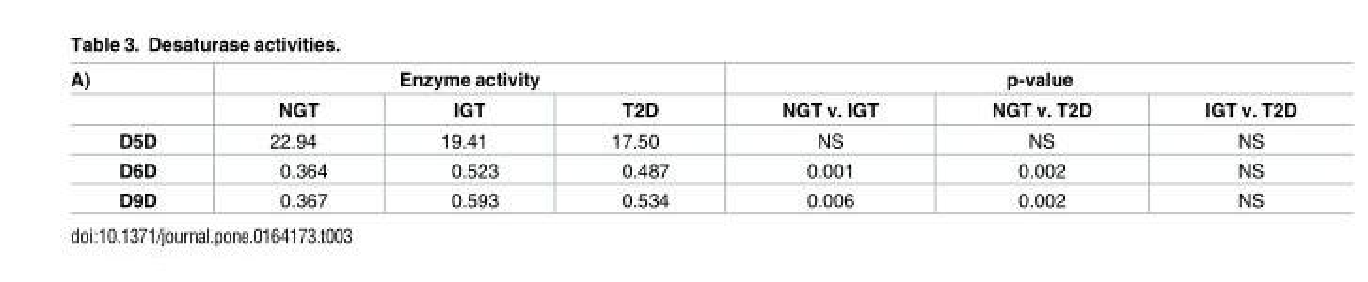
<table><thead><tr><td rowspan="2">A)</td><td colspan="3">Enzyme activity</td><td colspan="3">p-value</td></tr><tr><td>NGT</td><td>IGT</td><td>T2D</td><td>NGT v. IGT</td><td>NGT v. T2D</td><td>IGT v. T2D</td></tr></thead><tbody><tr><td>D5D</td><td>22.94</td><td>19.41</td><td>17.50</td><td>NS</td><td>NS</td><td>NS</td></tr><tr><td>D6D</td><td>0.364</td><td>0.523</td><td>0.487</td><td>0.001</td><td>0.002</td><td>NS</td></tr><tr><td>D9D</td><td>0.367</td><td>0.593</td><td>0.534</td><td>0.006</td><td>0.002</td><td>NS</td></tr></tbody></table>